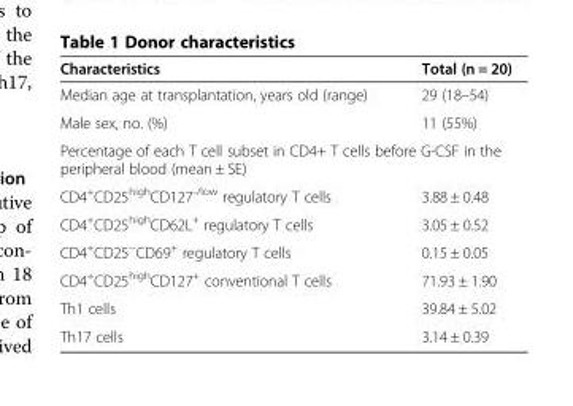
<table><thead><tr><td>Characteristics</td><td>Total (n = 20)</td></tr></thead><tbody><tr><td>Median age at transplantation, years old (range)</td><td>29 (18–54)</td></tr><tr><td>Male sex, no. (%)</td><td>11 (55%)</td></tr><tr><td colspan="2">Percentage of each T cell subset in CD4+ T cells before G-CSF in the peripheral blood (mean ± SE)</td></tr><tr><td>CD4<sup>+</sup>CD25<sup>high</sup>CD127<sup>-/low</sup> regulatory T cells</td><td>3.88 ± 0.48</td></tr><tr><td>CD4<sup>+</sup>CD25<sup>high</sup>CD62L<sup>+</sup> regulatory T cells</td><td>3.05 ± 0.52</td></tr><tr><td>CD4<sup>+</sup>CD25<sup>−</sup>CD69<sup>+</sup> regulatory T cells</td><td>0.15 ± 0.05</td></tr><tr><td>CD4<sup>+</sup>CD25<sup>high</sup>CD127<sup>+</sup> conventional T cells</td><td>71.93 ± 1.90</td></tr><tr><td>Th1 cells</td><td>39.84 ± 5.02</td></tr><tr><td>Th17 cells</td><td>3.14 ± 0.39</td></tr></tbody></table>